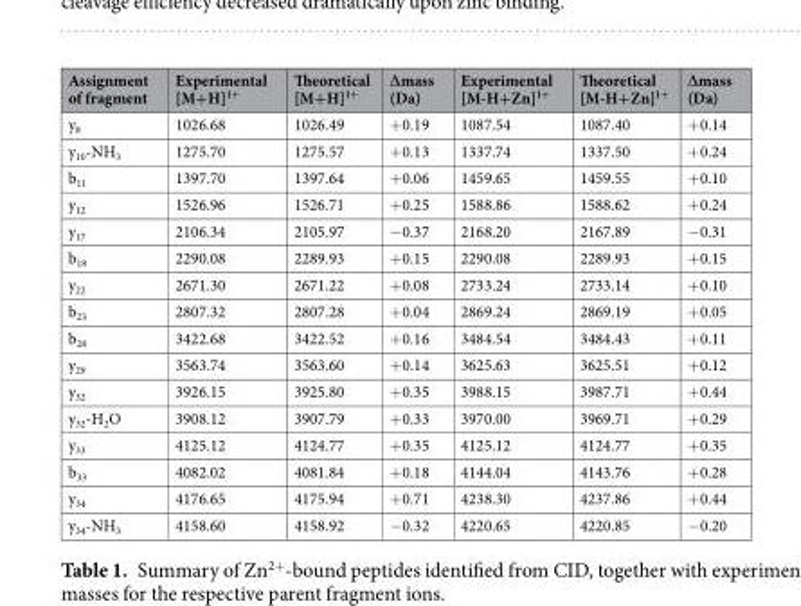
<table><thead><tr><td>Assignment of fragment</td><td>Experimental [M+H]<sup>1+</sup></td><td>Theoretical [M+H]<sup>1+</sup></td><td>∆mass (Da)</td><td>Experimental [M-H+Zn]<sup>1+</sup></td><td>Theoretical [M-H+Zn]<sup>1+</sup></td><td>∆mass (Da)</td></tr></thead><tbody><tr><td>y<sub>8</sub></td><td>1026.68</td><td>1026.49</td><td>+0.19</td><td>1087.54</td><td>1087.40</td><td>+0.14</td></tr><tr><td>y<sub>10</sub>-NH<sub>3</sub></td><td>1275.70</td><td>1275.57</td><td>+0.13</td><td>1337.74</td><td>1337.50</td><td>+0.24</td></tr><tr><td>b<sub>11</sub></td><td>1397.70</td><td>1397.64</td><td>+0.06</td><td>1459.65</td><td>1459.55</td><td>+0.10</td></tr><tr><td>y<sub>12</sub></td><td>1526.96</td><td>1526.71</td><td>+0.25</td><td>1588.86</td><td>1588.62</td><td>+0.24</td></tr><tr><td>y<sub>17</sub></td><td>2106.34</td><td>2105.97</td><td>−0.37</td><td>2168.20</td><td>2167.89</td><td>−0.31</td></tr><tr><td>b<sub>18</sub></td><td>2290.08</td><td>2289.93</td><td>+0.15</td><td>2290.08</td><td>2289.93</td><td>+0.15</td></tr><tr><td>y<sub>22</sub></td><td>2671.30</td><td>2671.22</td><td>+0.08</td><td>2733.24</td><td>2733.14</td><td>+0.10</td></tr><tr><td>b<sub>23</sub></td><td>2807.32</td><td>2807.28</td><td>+0.04</td><td>2869.24</td><td>2869.19</td><td>+0.05</td></tr><tr><td>b<sub>28</sub></td><td>3422.68</td><td>3422.52</td><td>+0.16</td><td>3484.54</td><td>3484.43</td><td>+0.11</td></tr><tr><td>y<sub>29</sub></td><td>3563.74</td><td>3563.60</td><td>+0.14</td><td>3625.63</td><td>3625.51</td><td>+0.12</td></tr><tr><td>y<sub>32</sub></td><td>3926.15</td><td>3925.80</td><td>+0.35</td><td>3988.15</td><td>3987.71</td><td>+0.44</td></tr><tr><td>y<sub>32</sub>-H<sub>2</sub>O</td><td>3908.12</td><td>3907.79</td><td>+0.33</td><td>3970.00</td><td>3969.71</td><td>+0.29</td></tr><tr><td>y<sub>33</sub></td><td>4125.12</td><td>4124.77</td><td>+0.35</td><td>4125.12</td><td>4124.77</td><td>+0.35</td></tr><tr><td>b<sub>33</sub></td><td>4082.02</td><td>4081.84</td><td>+0.18</td><td>4144.04</td><td>4143.76</td><td>+0.28</td></tr><tr><td>y<sub>34</sub></td><td>4176.65</td><td>4175.94</td><td>+0.71</td><td>4238.30</td><td>4237.86</td><td>+0.44</td></tr><tr><td>y<sub>34</sub>-NH<sub>3</sub></td><td>4158.60</td><td>4158.92</td><td>−0.32</td><td>4220.65</td><td>4220.85</td><td>−0.20</td></tr></tbody></table>